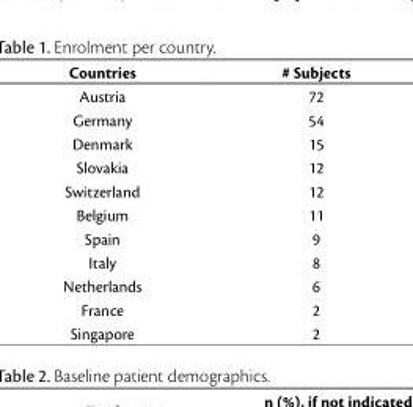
<table><thead><tr><td>Countries</td><td># Subjects</td></tr></thead><tbody><tr><td>Austria</td><td>72</td></tr><tr><td>Germany</td><td>54</td></tr><tr><td>Denmark</td><td>15</td></tr><tr><td>Slovakia</td><td>12</td></tr><tr><td>Switzerland</td><td>12</td></tr><tr><td>Belgium</td><td>11</td></tr><tr><td>Spain</td><td>9</td></tr><tr><td>Italy</td><td>8</td></tr><tr><td>Netherlands</td><td>6</td></tr><tr><td>France</td><td>2</td></tr><tr><td>Singapore</td><td>2</td></tr></tbody></table>